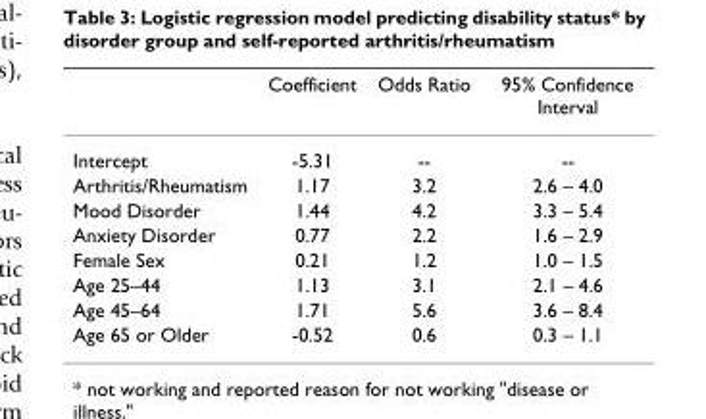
<table><thead><tr><td></td><td>Coefficient</td><td>Odds Ratio</td><td>95% Confidence Interval</td></tr></thead><tbody><tr><td>Intercept</td><td>-5.31</td><td>--</td><td>--</td></tr><tr><td>Arthritis/Rheumatism</td><td>1.17</td><td>3.2</td><td>2.6 – 4.0</td></tr><tr><td>Mood Disorder</td><td>1.44</td><td>4.2</td><td>3.3 – 5.4</td></tr><tr><td>Anxiety Disorder</td><td>0.77</td><td>2.2</td><td>1.6 – 2.9</td></tr><tr><td>Female Sex</td><td>0.21</td><td>1.2</td><td>1.0 – 1.5</td></tr><tr><td>Age 25–44</td><td>1.13</td><td>3.1</td><td>2.1 – 4.6</td></tr><tr><td>Age 45–64</td><td>1.71</td><td>5.6</td><td>3.6 – 8.4</td></tr><tr><td>Age 65 or Older</td><td>-0.52</td><td>0.6</td><td>0.3 – 1.1</td></tr></tbody></table>